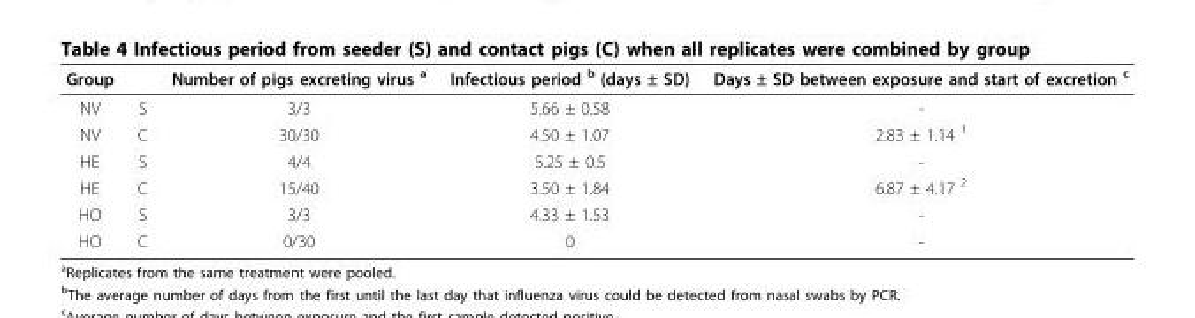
<table><thead><tr><td>Group</td><td></td><td>Number of pigs excreting virus <sup>a</sup></td><td>Infectious period <sup>b</sup> (days ± SD)</td><td>Days ± SD between exposure and start of excretion <sup>c</sup></td></tr></thead><tbody><tr><td>NV</td><td>S</td><td>3/3</td><td>5.66 ± 0.58</td><td>-</td></tr><tr><td>NV</td><td>C</td><td>30/30</td><td>4.50 ± 1.07</td><td>2.83 ± 1.14 <sup>1</sup></td></tr><tr><td>HE</td><td>S</td><td>4/4</td><td>5.25 ± 0.5</td><td>-</td></tr><tr><td>HE</td><td>C</td><td>15/40</td><td>3.50 ± 1.84</td><td>6.87 ± 4.17 <sup>2</sup></td></tr><tr><td>HO</td><td>S</td><td>3/3</td><td>4.33 ± 1.53</td><td>-</td></tr><tr><td>HO</td><td>C</td><td>0/30</td><td>0</td><td>-</td></tr></tbody></table>